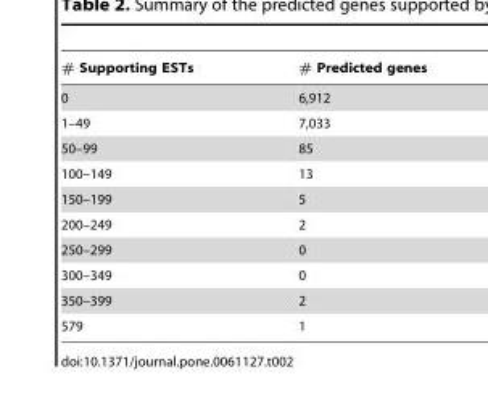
<table><thead><tr><td># Supporting ESTs</td><td># Predicted genes</td></tr></thead><tbody><tr><td>0</td><td>6,912</td></tr><tr><td>1–49</td><td>7,033</td></tr><tr><td>50–99</td><td>85</td></tr><tr><td>100–149</td><td>13</td></tr><tr><td>150–199</td><td>5</td></tr><tr><td>200–249</td><td>2</td></tr><tr><td>250–299</td><td>0</td></tr><tr><td>300–349</td><td>0</td></tr><tr><td>350–399</td><td>2</td></tr><tr><td>579</td><td>1</td></tr></tbody></table>